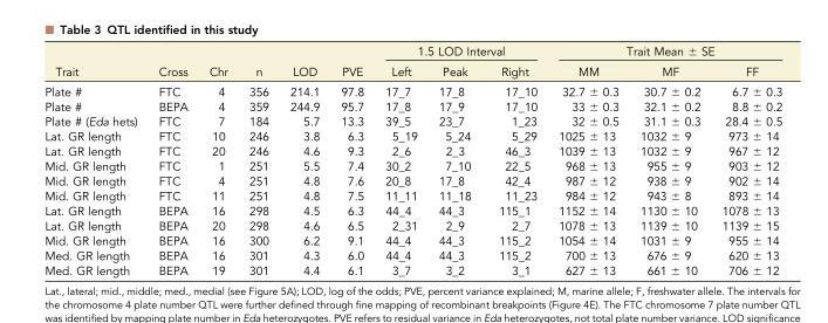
<table><thead><tr><td rowspan="2">Trait</td><td rowspan="2">Cross</td><td rowspan="2">Chr</td><td rowspan="2">n</td><td rowspan="2">LOD</td><td rowspan="2">PVE</td><td colspan="3">1.5 LOD Interval</td><td colspan="3">Trait Mean ± SE</td></tr><tr><td>Left</td><td>Peak</td><td>Right</td><td>MM</td><td>MF</td><td>FF</td></tr></thead><tbody><tr><td>Plate #</td><td>FTC</td><td>4</td><td>356</td><td>214.1</td><td>97.8</td><td>17_7</td><td>17_8</td><td>17_10</td><td>32.7 ± 0.3</td><td>30.7 ± 0.2</td><td>6.7 ± 0.3</td></tr><tr><td>Plate #</td><td>BEPA</td><td>4</td><td>359</td><td>244.9</td><td>95.7</td><td>17_8</td><td>17_9</td><td>17_10</td><td>33 ± 0.3</td><td>32.1 ± 0.2</td><td>8.8 ± 0.2</td></tr><tr><td>Plate # (Eda hets)</td><td>FTC</td><td>7</td><td>184</td><td>5.7</td><td>13.3</td><td>39_5</td><td>23_7</td><td>1_23</td><td>32 ± 0.5</td><td>31.1 ± 0.3</td><td>28.4 ± 0.5</td></tr><tr><td>Lat. GR length</td><td>FTC</td><td>10</td><td>246</td><td>3.8</td><td>6.3</td><td>5_19</td><td>5_24</td><td>5_29</td><td>1025 ± 13</td><td>1032 ± 9</td><td>973 ± 14</td></tr><tr><td>Lat. GR length</td><td>FTC</td><td>20</td><td>246</td><td>4.6</td><td>9.3</td><td>2_6</td><td>2_3</td><td>46_3</td><td>1039 ± 13</td><td>1032 ± 9</td><td>967 ± 12</td></tr><tr><td>Mid. GR length</td><td>FTC</td><td>1</td><td>251</td><td>5.5</td><td>7.4</td><td>30_2</td><td>7_10</td><td>22_5</td><td>968 ± 13</td><td>955 ± 9</td><td>903 ± 12</td></tr><tr><td>Mid. GR length</td><td>FTC</td><td>4</td><td>251</td><td>4.8</td><td>7.6</td><td>20_8</td><td>17_8</td><td>42_4</td><td>987 ± 12</td><td>938 ± 9</td><td>902 ± 14</td></tr><tr><td>Mid. GR length</td><td>FTC</td><td>11</td><td>251</td><td>4.8</td><td>7.5</td><td>11_11</td><td>11_18</td><td>11_23</td><td>984 ± 12</td><td>943 ± 8</td><td>893 ± 14</td></tr><tr><td>Lat. GR length</td><td>BEPA</td><td>16</td><td>298</td><td>4.5</td><td>6.3</td><td>44_4</td><td>44_3</td><td>115_1</td><td>1152 ± 14</td><td>1130 ± 10</td><td>1078 ± 13</td></tr><tr><td>Lat. GR length</td><td>BEPA</td><td>20</td><td>298</td><td>4.6</td><td>6.5</td><td>2_31</td><td>2_9</td><td>2_7</td><td>1078 ± 13</td><td>1139 ± 10</td><td>1139 ± 15</td></tr><tr><td>Mid. GR length</td><td>BEPA</td><td>16</td><td>300</td><td>6.2</td><td>9.1</td><td>44_4</td><td>44_3</td><td>115_2</td><td>1054 ± 14</td><td>1031 ± 9</td><td>955 ± 14</td></tr><tr><td>Med. GR length</td><td>BEPA</td><td>16</td><td>301</td><td>4.3</td><td>6.0</td><td>44_4</td><td>44_3</td><td>115_2</td><td>700 ± 13</td><td>676 ± 9</td><td>620 ± 13</td></tr><tr><td>Med. GR length</td><td>BEPA</td><td>19</td><td>301</td><td>4.4</td><td>6.1</td><td>3_7</td><td>3_2</td><td>3_1</td><td>627 ± 13</td><td>661 ± 10</td><td>706 ± 12</td></tr></tbody></table>